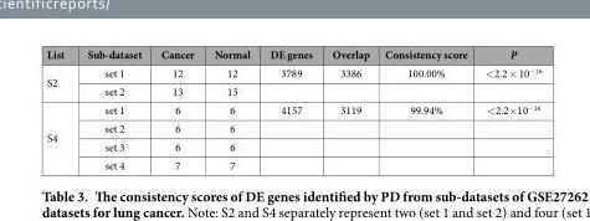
<table><thead><tr><td>List</td><td>Sub-dataset</td><td>Cancer</td><td>Normal</td><td>DE genes</td><td>Overlap</td><td>Consistency score</td><td>P</td></tr></thead><tbody><tr><td rowspan="2">S2</td><td>set 1</td><td>12</td><td>12</td><td>3789</td><td>3386</td><td>100.00%</td><td>&lt; 2.2 × 10<sup>−16</sup></td></tr><tr><td>set 2</td><td>13</td><td>13</td><td></td><td></td><td></td><td></td></tr><tr><td rowspan="4">S4</td><td>set 1</td><td>6</td><td>6</td><td>4157</td><td>3119</td><td>99.94%</td><td>&lt; 2.2× 10<sup>−16</sup></td></tr><tr><td>set 2</td><td>6</td><td>6</td><td></td><td></td><td></td><td></td></tr><tr><td>set 3</td><td>6</td><td>6</td><td></td><td></td><td></td><td></td></tr><tr><td>set 4</td><td>7</td><td>7</td><td></td><td></td><td></td><td></td></tr></tbody></table>